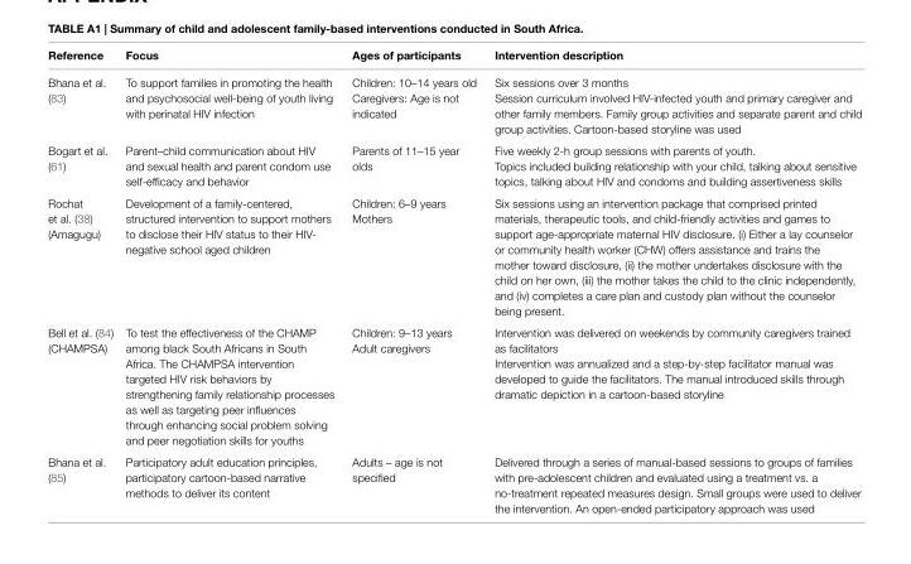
<table><thead><tr><td>reference</td><td>Focus</td><td>ages of participants</td><td>intervention description</td></tr></thead><tbody><tr><td>Bhana et al. (83)</td><td>To support families in promoting the health and psychosocial well-being of youth living with perinatal HIV infection</td><td>Children: 10–14 years old Caregivers: Age is not indicated</td><td>Six sessions over 3 months Session curriculum involved HIV-infected youth and primary caregiver and other family members. Family group activities and separate parent and child group activities. Cartoon-based storyline was used</td></tr><tr><td>Bogart et al. (61)</td><td>Parent–child communication about HIV and sexual health and parent condom use self-efficacy and behavior</td><td>Parents of 11–15 year olds</td><td>Five weekly 2-h group sessions with parents of youth. Topics included building relationship with your child, talking about sensitive topics, talking about HIV and condoms and building assertiveness skills</td></tr><tr><td>Rochat et al. (38) (Amagugu)</td><td>Development of a family-centered, structured intervention to support mothers to disclose their HIV status to their HIV- negative school aged children</td><td>Children: 6–9 years Mothers</td><td>Six sessions using an intervention package that comprised printed materials, therapeutic tools, and child-friendly activities and games to support age-appropriate maternal HIV disclosure. (i) Either a lay counselor or community health worker (CHW) offers assistance and trains the mother toward disclosure, (ii) the mother undertakes disclosure with the child on her own, (iii) the mother takes the child to the clinic independently, and (iv) completes a care plan and custody plan without the counselor being present.</td></tr><tr><td>Bell et al. (84) (CHAMPSA)</td><td>To test the effectiveness of the CHAMP among black South Africans in South Africa. The CHAMPSA intervention targeted HIV risk behaviors by strengthening family relationship processes as well as targeting peer influences through enhancing social problem solving and peer negotiation skills for youths</td><td>Children: 9–13 years Adult caregivers</td><td>Intervention was delivered on weekends by community caregivers trained as facilitators Intervention was annualized and a step-by-step facilitator manual was developed to guide the facilitators. The manual introduced skills through dramatic depiction in a cartoon-based storyline</td></tr><tr><td>Bhana et al. (85)</td><td>Participatory adult education principles, participatory cartoon-based narrative methods to deliver its content</td><td>Adults – age is not specified</td><td>Delivered through a series of manual-based sessions to groups of families with pre-adolescent children and evaluated using a treatment vs. a no-treatment repeated measures design. Small groups were used to deliver the intervention. An open-ended participatory approach was used</td></tr></tbody></table>